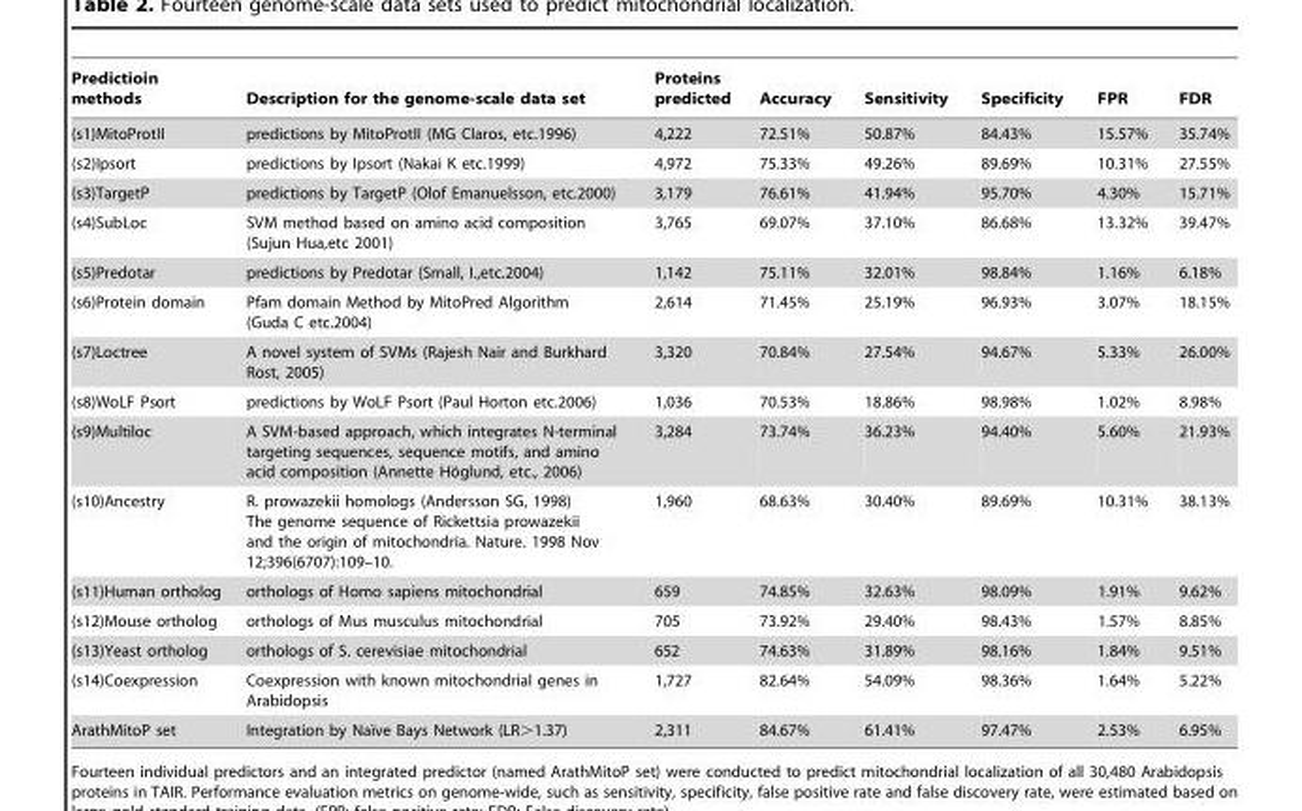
<table><thead><tr><td>Predictioin methods</td><td>Description for the genome-scale data set</td><td>Proteins predicted</td><td>Accuracy</td><td>Sensitivity</td><td>Specificity</td><td>FPR</td><td>FDR</td></tr></thead><tbody><tr><td>(s1)MitoProtII</td><td>predictions by MitoProtII (MG Claros, etc.1996)</td><td>4,222</td><td>72.51%</td><td>50.87%</td><td>84.43%</td><td>15.57%</td><td>35.74%</td></tr><tr><td>(s2)Ipsort</td><td>predictions by Ipsort (Nakai K etc.1999)</td><td>4,972</td><td>75.33%</td><td>49.26%</td><td>89.69%</td><td>10.31%</td><td>27.55%</td></tr><tr><td>(s3)TargetP</td><td>predictions by TargetP (Olof Emanuelsson, etc.2000)</td><td>3,179</td><td>76.61%</td><td>41.94%</td><td>95.70%</td><td>4.30%</td><td>15.71%</td></tr><tr><td>(s4)SubLoc</td><td>SVM method based on amino acid composition (Sujun Hua,etc 2001)</td><td>3,765</td><td>69.07%</td><td>37.10%</td><td>86.68%</td><td>13.32%</td><td>39.47%</td></tr><tr><td>(s5)Predotar</td><td>predictions by Predotar (Small, I.,etc.2004)</td><td>1,142</td><td>75.11%</td><td>32.01%</td><td>98.84%</td><td>1.16%</td><td>6.18%</td></tr><tr><td>(s6)Protein domain</td><td>Pfam domain Method by MitoPred Algorithm (Guda C etc.2004)</td><td>2,614</td><td>71.45%</td><td>25.19%</td><td>96.93%</td><td>3.07%</td><td>18.15%</td></tr><tr><td>(s7)Loctree</td><td>A novel system of SVMs (Rajesh Nair and Burkhard Rost, 2005)</td><td>3,320</td><td>70.84%</td><td>27.54%</td><td>94.67%</td><td>5.33%</td><td>26.00%</td></tr><tr><td>(s8)WoLF Psort</td><td>predictions by WoLF Psort (Paul Horton etc.2006)</td><td>1,036</td><td>70.53%</td><td>18.86%</td><td>98.98%</td><td>1.02%</td><td>8.98%</td></tr><tr><td>(s9)Multiloc</td><td>A SVM-based approach, which integrates N-terminal targeting sequences, sequence motifs, and amino acid composition (Annette Ho¨glund, etc., 2006)</td><td>3,284</td><td>73.74%</td><td>36.23%</td><td>94.40%</td><td>5.60%</td><td>21.93%</td></tr><tr><td>(s10)Ancestry</td><td>R. prowazekii homologs (Andersson SG, 1998) The genome sequence of Rickettsia prowazekii and the origin of mitochondria. Nature. 1998 Nov 12;396(6707):109–10.</td><td>1,960</td><td>68.63%</td><td>30.40%</td><td>89.69%</td><td>10.31%</td><td>38.13%</td></tr><tr><td>(s11)Human ortholog</td><td>orthologs of Homo sapiens mitochondrial</td><td>659</td><td>74.85%</td><td>32.63%</td><td>98.09%</td><td>1.91%</td><td>9.62%</td></tr><tr><td>(s12)Mouse ortholog</td><td>orthologs of Mus musculus mitochondrial</td><td>705</td><td>73.92%</td><td>29.40%</td><td>98.43%</td><td>1.57%</td><td>8.85%</td></tr><tr><td>(s13)Yeast ortholog</td><td>orthologs of S. cerevisiae mitochondrial</td><td>652</td><td>74.63%</td><td>31.89%</td><td>98.16%</td><td>1.84%</td><td>9.51%</td></tr><tr><td>(s14)Coexpression</td><td>Coexpression with known mitochondrial genes in Arabidopsis</td><td>1,727</td><td>82.64%</td><td>54.09%</td><td>98.36%</td><td>1.64%</td><td>5.22%</td></tr><tr><td>ArathMitoP set</td><td>Integration by Naı¨ve Bays Network (LR.1.37)</td><td>2,311</td><td>84.67%</td><td>61.41%</td><td>97.47%</td><td>2.53%</td><td>6.95%</td></tr></tbody></table>